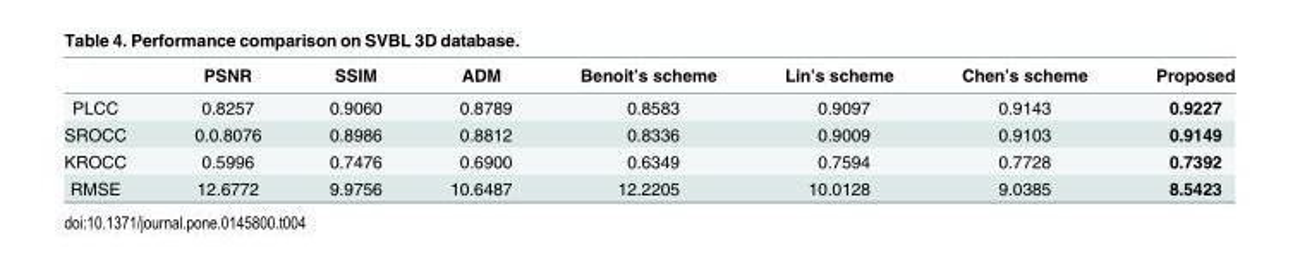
<table><thead><tr><td></td><td>PSNR</td><td>SSIM</td><td>ADM</td><td>Benoit’s scheme</td><td>Lin’s scheme</td><td>Chen’s scheme</td><td>Proposed</td></tr></thead><tbody><tr><td>PLCC</td><td>0.8257</td><td>0.9060</td><td>0.8789</td><td>0.8583</td><td>0.9097</td><td>0.9143</td><td>0.9227</td></tr><tr><td>SROCC</td><td>0.0.8076</td><td>0.8986</td><td>0.8812</td><td>0.8336</td><td>0.9009</td><td>0.9103</td><td>0.9149</td></tr><tr><td>KROCC</td><td>0.5996</td><td>0.7476</td><td>0.6900</td><td>0.6349</td><td>0.7594</td><td>0.7728</td><td>0.7392</td></tr><tr><td>RMSE</td><td>12.6772</td><td>9.9756</td><td>10.6487</td><td>12.2205</td><td>10.0128</td><td>9.0385</td><td>8.5423</td></tr></tbody></table>